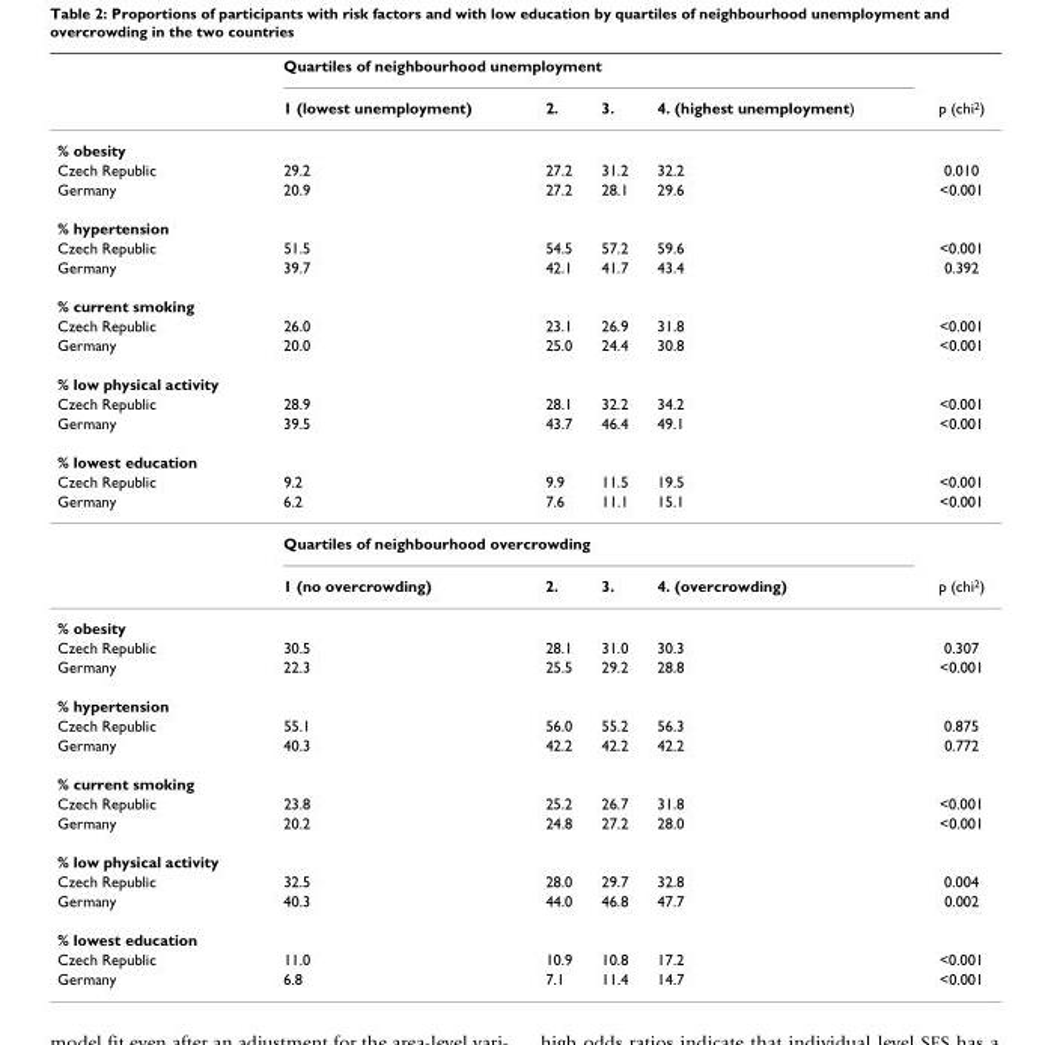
<table><thead><tr><td rowspan="2"></td><td colspan="4">Quartiles of neighbourhood unemployment</td><td rowspan="2">p (chi<sup>2</sup>)</td></tr><tr><td>1 (lowest unemployment)</td><td>2.</td><td>3.</td><td>4. (highest unemployment)</td></tr></thead><tbody><tr><td colspan="6">% obesity</td></tr><tr><td>Czech Republic</td><td>29.2</td><td>27.2</td><td>31.2</td><td>32.2</td><td>0.010</td></tr><tr><td>Germany</td><td>20.9</td><td>27.2</td><td>28.1</td><td>29.6</td><td>&lt;0.001</td></tr><tr><td colspan="6">% hypertension</td></tr><tr><td>Czech Republic</td><td>51.5</td><td>54.5</td><td>57.2</td><td>59.6</td><td>&lt;0.001</td></tr><tr><td>Germany</td><td>39.7</td><td>42.1</td><td>41.7</td><td>43.4</td><td>0.392</td></tr><tr><td colspan="6">% current smoking</td></tr><tr><td>Czech Republic</td><td>26.0</td><td>23.1</td><td>26.9</td><td>31.8</td><td>&lt;0.001</td></tr><tr><td>Germany</td><td>20.0</td><td>25.0</td><td>24.4</td><td>30.8</td><td>&lt;0.001</td></tr><tr><td colspan="6">% low physical activity</td></tr><tr><td>Czech Republic</td><td>28.9</td><td>28.1</td><td>32.2</td><td>34.2</td><td>&lt;0.001</td></tr><tr><td>Germany</td><td>39.5</td><td>43.7</td><td>46.4</td><td>49.1</td><td>&lt;0.001</td></tr><tr><td colspan="6">% lowest education</td></tr><tr><td>Czech Republic</td><td>9.2</td><td>9.9</td><td>11.5</td><td>19.5</td><td>&lt;0.001</td></tr><tr><td rowspan="3">Germany</td><td>6.2</td><td>7.6</td><td>11.1</td><td>15.1</td><td>&lt;0.001</td></tr><tr><td colspan="4">Quartiles of neighbourhood overcrowding</td><td></td></tr><tr><td>1 (no overcrowding)</td><td>2.</td><td>3.</td><td>4. (overcrowding)</td><td>p (chi<sup>2</sup>)</td></tr><tr><td colspan="6">% obesity</td></tr><tr><td>Czech Republic</td><td>30.5</td><td>28.1</td><td>31.0</td><td>30.3</td><td>0.307</td></tr><tr><td>Germany</td><td>22.3</td><td>25.5</td><td>29.2</td><td>28.8</td><td>&lt;0.001</td></tr><tr><td colspan="6">% hypertension</td></tr><tr><td>Czech Republic</td><td>55.1</td><td>56.0</td><td>55.2</td><td>56.3</td><td>0.875</td></tr><tr><td>Germany</td><td>40.3</td><td>42.2</td><td>42.2</td><td>42.2</td><td>0.772</td></tr><tr><td colspan="6">% current smoking</td></tr><tr><td>Czech Republic</td><td>23.8</td><td>25.2</td><td>26.7</td><td>31.8</td><td>&lt;0.001</td></tr><tr><td>Germany</td><td>20.2</td><td>24.8</td><td>27.2</td><td>28.0</td><td>&lt;0.001</td></tr><tr><td colspan="6">% low physical activity</td></tr><tr><td>Czech Republic</td><td>32.5</td><td>28.0</td><td>29.7</td><td>32.8</td><td>0.004</td></tr><tr><td>Germany</td><td>40.3</td><td>44.0</td><td>46.8</td><td>47.7</td><td>0.002</td></tr><tr><td colspan="6">% lowest education</td></tr><tr><td>Czech Republic</td><td>11.0</td><td>10.9</td><td>10.8</td><td>17.2</td><td>&lt;0.001</td></tr><tr><td>Germany</td><td>6.8</td><td>7.1</td><td>11.4</td><td>14.7</td><td>&lt;0.001</td></tr></tbody></table>